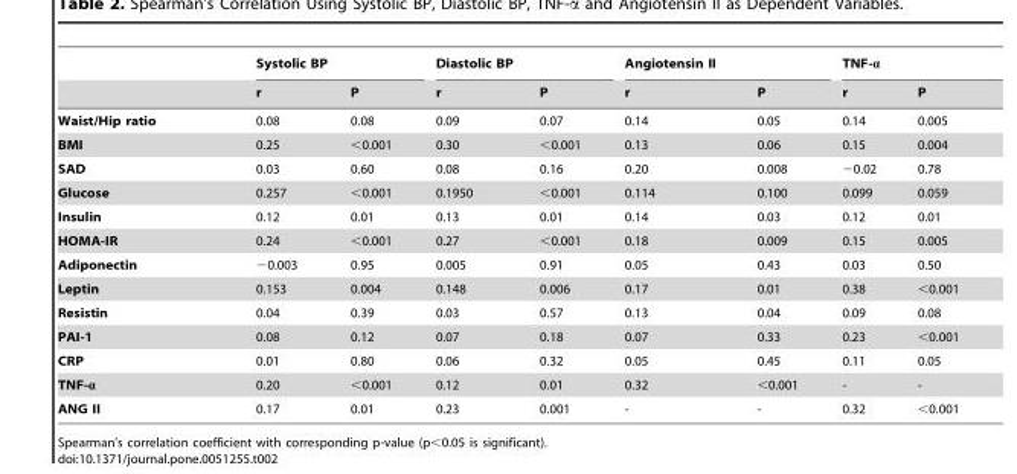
<table><thead><tr><td rowspan="2"></td><td colspan="2">Systolic BP</td><td colspan="2">Diastolic BP</td><td colspan="2">Angiotensin II</td><td colspan="2">TNF-α</td></tr><tr><td>r</td><td>P</td><td>r</td><td>P</td><td>r</td><td>P</td><td>r</td><td>P</td></tr></thead><tbody><tr><td>Waist/Hip ratio</td><td>0.08</td><td>0.08</td><td>0.09</td><td>0.07</td><td>0.14</td><td>0.05</td><td>0.14</td><td>0.005</td></tr><tr><td>BMI</td><td>0.25</td><td>&lt;0.001</td><td>0.30</td><td>&lt;0.001</td><td>0.13</td><td>0.06</td><td>0.15</td><td>0.004</td></tr><tr><td>SAD</td><td>0.03</td><td>0.60</td><td>0.08</td><td>0.16</td><td>0.20</td><td>0.008</td><td>−0.02</td><td>0.78</td></tr><tr><td>Glucose</td><td>0.257</td><td>&lt;0.001</td><td>0.1950</td><td>&lt;0.001</td><td>0.114</td><td>0.100</td><td>0.099</td><td>0.059</td></tr><tr><td>Insulin</td><td>0.12</td><td>0.01</td><td>0.13</td><td>0.01</td><td>0.14</td><td>0.03</td><td>0.12</td><td>0.01</td></tr><tr><td>HOMA-IR</td><td>0.24</td><td>&lt;0.001</td><td>0.27</td><td>&lt;0.001</td><td>0.18</td><td>0.009</td><td>0.15</td><td>0.005</td></tr><tr><td>Adiponectin</td><td>−0.003</td><td>0.95</td><td>0.005</td><td>0.91</td><td>0.05</td><td>0.43</td><td>0.03</td><td>0.50</td></tr><tr><td>Leptin</td><td>0.153</td><td>0.004</td><td>0.148</td><td>0.006</td><td>0.17</td><td>0.01</td><td>0.38</td><td>&lt;0.001</td></tr><tr><td>Resistin</td><td>0.04</td><td>0.39</td><td>0.03</td><td>0.57</td><td>0.13</td><td>0.04</td><td>0.09</td><td>0.08</td></tr><tr><td>PAI-1</td><td>0.08</td><td>0.12</td><td>0.07</td><td>0.18</td><td>0.07</td><td>0.33</td><td>0.23</td><td>&lt;0.001</td></tr><tr><td>CRP</td><td>0.01</td><td>0.80</td><td>0.06</td><td>0.32</td><td>0.05</td><td>0.45</td><td>0.11</td><td>0.05</td></tr><tr><td>TNF-α</td><td>0.20</td><td>&lt;0.001</td><td>0.12</td><td>0.01</td><td>0.32</td><td>&lt;0.001</td><td>-</td><td>-</td></tr><tr><td>ANG II</td><td>0.17</td><td>0.01</td><td>0.23</td><td>0.001</td><td>-</td><td>-</td><td>0.32</td><td>&lt;0.001</td></tr></tbody></table>